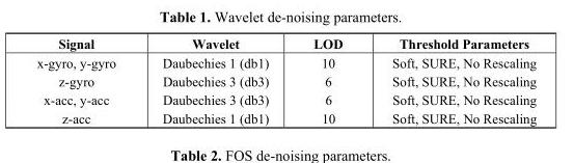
<table><thead><tr><td>Signal</td><td>Wavelet</td><td>LOD</td><td>Threshold Parameters</td></tr></thead><tbody><tr><td>x-gyro, y-gyro</td><td>Daubechies 1 (db1)</td><td>10</td><td>Soft, SURE, No Rescaling</td></tr><tr><td>z-gyro</td><td>Daubechies 3 (db3)</td><td>6</td><td>Soft, SURE, No Rescaling</td></tr><tr><td>x-acc, y-acc</td><td>Daubechies 3 (db3)</td><td>6</td><td>Soft, SURE, No Rescaling</td></tr><tr><td>z-acc</td><td>Daubechies 1 (db1)</td><td>10</td><td>Soft, SURE, No Rescaling</td></tr></tbody></table>